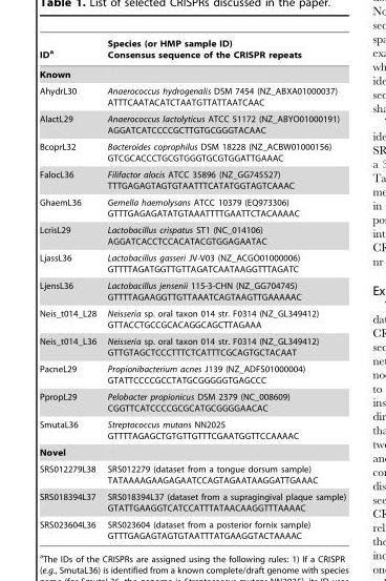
<table><thead><tr><td>ID<sup>a</sup></td><td>Species (or HMP sample ID) Consensus sequence of the CRISPR repeats</td></tr></thead><tbody><tr><td colspan="2">Known</td></tr><tr><td>AhydrL30</td><td>Anaerococcus hydrogenalis DSM 7454 (NZ_ABXA01000037) ATTTCAATACATCTAATGTTATTAATCAAC</td></tr><tr><td>AlactL29</td><td>Anaerococcus lactolyticus ATCC 51172 (NZ_ABYO01000191) AGGATCATCCCCGCTTGTGCGGGTACAAC</td></tr><tr><td>BcoprL32</td><td>Bacteroides coprophilus DSM 18228 (NZ_ACBW01000156) GTCGCACCCTGCGTGGGTGCGTGGATTGAAAC</td></tr><tr><td>FalocL36</td><td>Filifactor alocis ATCC 35896 (NZ_GG745527) TTTGAGAGTAGTGTAATTTCATATGGTAGTCAAAC</td></tr><tr><td>GhaemL36</td><td>Gemella haemolysans ATCC 10379 (EQ973306) GTTTGAGAGATATGTAAATTTTGAATTCTACAAAAC</td></tr><tr><td>LcrisL29</td><td>Lactobacillus crispatus ST1 (NC_014106) AGGATCACCTCCACATACGTGGAGAATAC</td></tr><tr><td>LjassL36</td><td>Lactobacillus gasseri JV-V03 (NZ_ACGO01000006) GTTTTAGATGGTTGTTAGATCAATAAGGTTTAGATC</td></tr><tr><td>LjensL36</td><td>Lactobacillus jensenii 115-3-CHN (NZ_GG704745) GTTTTAGAAGGTTGTTAAATCAGTAAGTTGAAAAAC</td></tr><tr><td>Neis_t014_L28</td><td>Neisseria sp. oral taxon 014 str. F0314 (NZ_GL349412) GTTACCTGCCGCACAGGCAGCTTAGAAA</td></tr><tr><td>Neis_t014_L36</td><td>Neisseria sp. oral taxon 014 str. F0314 (NZ_GL349412) GTTGTAGCTCCCTTTCTCATTTCGCAGTGCTACAAT</td></tr><tr><td>PacneL29</td><td>Propionibacterium acnes J139 (NZ_ADFS01000004) GTATTCCCCGCCTATGCGGGGGTGAGCCC</td></tr><tr><td>PpropL29</td><td>Pelobacter propionicus DSM 2379 (NC_008609) CGGTTCATCCCCGCGCATGCGGGGAACAC</td></tr><tr><td>SmutaL36</td><td>Streptococcus mutans NN2025 GTTTTAGAGCTGTGTTGTTTCGAATGGTTCCAAAAC</td></tr><tr><td colspan="2">Novel</td></tr><tr><td>SRS012279L38</td><td>SRS012279 (dataset from a tongue dorsum sample) TATAAAAGAAGAGAATCCAGTAGAATAAGGATTGAAAC</td></tr><tr><td>SRS018394L37</td><td>SRS018394L37 (dataset from a supragingival plaque sample) GTATTGAAGGTCATCCATTTATAACAAGGTTTAAAAC</td></tr><tr><td>SRS023604L36</td><td>SRS023604 (dataset from a posterior fornix sample) GTTTGAGAGTAGTGTAATTTATGAAGGTACTAAAAC</td></tr></tbody></table>